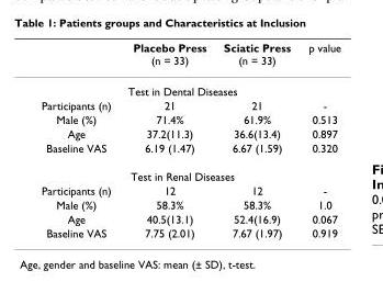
<table><thead><tr><td></td><td>Placebo Press (n = 33)</td><td>Sciatic Press (n = 33)</td><td>p value</td></tr></thead><tbody><tr><td colspan="4">Test in Dental Diseases</td></tr><tr><td>Participants (n)</td><td>21</td><td>21</td><td>-</td></tr><tr><td>Male (%)</td><td>71.4%</td><td>61.9%</td><td>0.513</td></tr><tr><td>Age</td><td>37.2(11.3)</td><td>36.6(13.4)</td><td>0.897</td></tr><tr><td>Baseline VAS</td><td>6.19 (1.47)</td><td>6.67 (1.59)</td><td>0.320</td></tr><tr><td colspan="4">Test in Renal Diseases</td></tr><tr><td>Participants (n)</td><td>12</td><td>12</td><td>-</td></tr><tr><td>Male (%)</td><td>58.3%</td><td>58.3%</td><td>1.0</td></tr><tr><td>Age</td><td>40.5(13.1)</td><td>52.4(16.9)</td><td>0.067</td></tr><tr><td>Baseline VAS</td><td>7.75 (2.01)</td><td>7.67 (1.97)</td><td>0.919</td></tr></tbody></table>